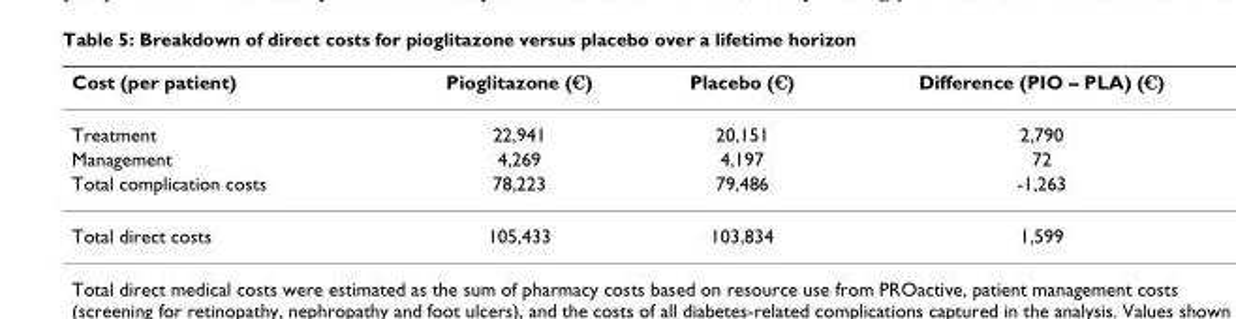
<table><thead><tr><td>Cost (per patient)</td><td>Pioglitazone (€)</td><td>Placebo (€)</td><td>Difference (PIO – PLA) (€)</td></tr></thead><tbody><tr><td>Treatment</td><td>22,941</td><td>20,151</td><td>2,790</td></tr><tr><td>Management</td><td>4,269</td><td>4,197</td><td>72</td></tr><tr><td>Total complication costs</td><td>78,223</td><td>79,486</td><td>-1,263</td></tr><tr><td>Total direct costs</td><td>105,433</td><td>103,834</td><td>1,599</td></tr></tbody></table>